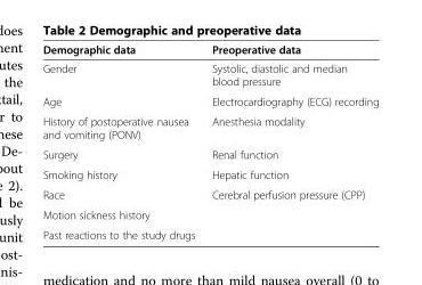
<table><thead><tr><td>Demographic data</td><td>Preoperative data</td></tr></thead><tbody><tr><td>Gender</td><td>Systolic, diastolic and median blood pressure</td></tr><tr><td>Age</td><td>Electrocardiography (ECG) recording</td></tr><tr><td>History of postoperative nausea and vomiting (PONV)</td><td>Anesthesia modality</td></tr><tr><td>Surgery</td><td>Renal function</td></tr><tr><td>Smoking history</td><td>Hepatic function</td></tr><tr><td>Race</td><td>Cerebral perfusion pressure (CPP)</td></tr><tr><td colspan="2">Motion sickness history</td></tr><tr><td>Past reactions to the study drugs</td><td></td></tr></tbody></table>